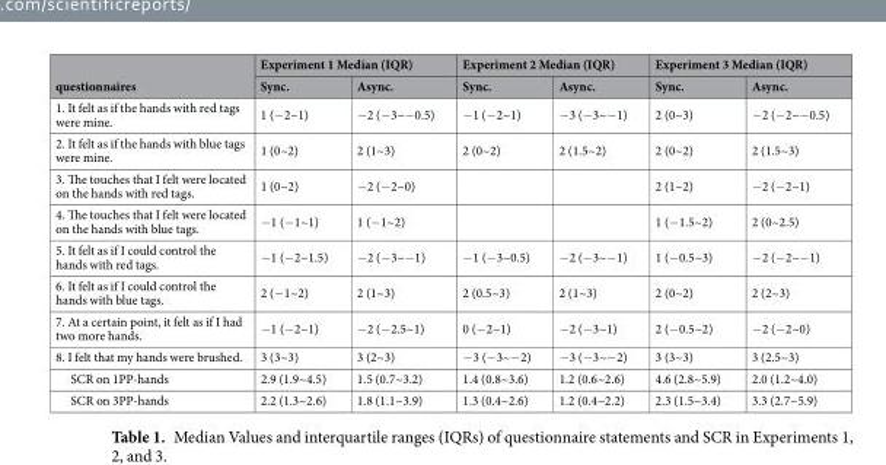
<table><thead><tr><td rowspan="2">questionnaires</td><td colspan="2">Experiment 1 Median (IQR)</td><td colspan="2">Experiment 2 Median (IQR)</td><td colspan="2">Experiment 3 Median (IQR)</td></tr><tr><td>Sync.</td><td>Async.</td><td>Sync.</td><td>Async.</td><td>Sync.</td><td>Async.</td></tr></thead><tbody><tr><td>1. It felt as if the hands with red tags were mine.</td><td>1 (−2~1)</td><td>−2 (−3~−0.5)</td><td>−1 (−2~1)</td><td>−3 (−3~−1)</td><td>2 (0~3)</td><td>−2 (−2~−0.5)</td></tr><tr><td>2. It felt as if the hands with blue tags were mine.</td><td>1 (0~2)</td><td>2 (1~3)</td><td>2 (0~2)</td><td>2 (1.5~2)</td><td>2 (0~2)</td><td>2 (1.5~3)</td></tr><tr><td>3. The touches that I felt were located on the hands with red tags.</td><td>1 (0~2)</td><td>−2 (−2~0)</td><td></td><td></td><td>2 (1~2)</td><td>−2 (−2~1)</td></tr><tr><td>4. The touches that I felt were located on the hands with blue tags.</td><td>−1 (−1~1)</td><td>1 (−1~2)</td><td></td><td></td><td>1 (−1.5~2)</td><td>2 (0~2.5)</td></tr><tr><td>5. It felt as if I could control the hands with red tags.</td><td>−1 (−2~1.5)</td><td>−2 (−3~−1)</td><td>−1 (−3~0.5)</td><td>−2 (−3~−1)</td><td>1 (−0.5~3)</td><td>−2 (−2~−1)</td></tr><tr><td>6. It felt as if I could control the hands with blue tags.</td><td>2 (−1~2)</td><td>2 (1~3)</td><td>2 (0.5~3)</td><td>2 (1~3)</td><td>2 (0~2)</td><td>2 (2~3)</td></tr><tr><td>7. At a certain point, it felt as if I had two more hands.</td><td>−1 (−2~1)</td><td>−2 (−2.5~1)</td><td>0 (−2~1)</td><td>−2 (−3~1)</td><td>2 (−0.5~2)</td><td>−2 (−2~0)</td></tr><tr><td>8. I felt that my hands were brushed.</td><td>3 (3~3)</td><td>3 (2~3)</td><td>−3 (−3~−2)</td><td>−3 (−3~−2)</td><td>3 (3~3)</td><td>3 (2.5~3)</td></tr><tr><td>SCR on 1PP-hands</td><td>2.9 (1.9~4.5)</td><td>1.5 (0.7~3.2)</td><td>1.4 (0.8~3.6)</td><td>1.2 (0.6~2.6)</td><td>4.6 (2.8~5.9)</td><td>2.0 (1.2~4.0)</td></tr><tr><td>SCR on 3PP-hands</td><td>2.2 (1.3~2.6)</td><td>1.8 (1.1~3.9)</td><td>1.3 (0.4~2.6)</td><td>1.2 (0.4~2.2)</td><td>2.3 (1.5~3.4)</td><td>3.3 (2.7~5.9)</td></tr></tbody></table>